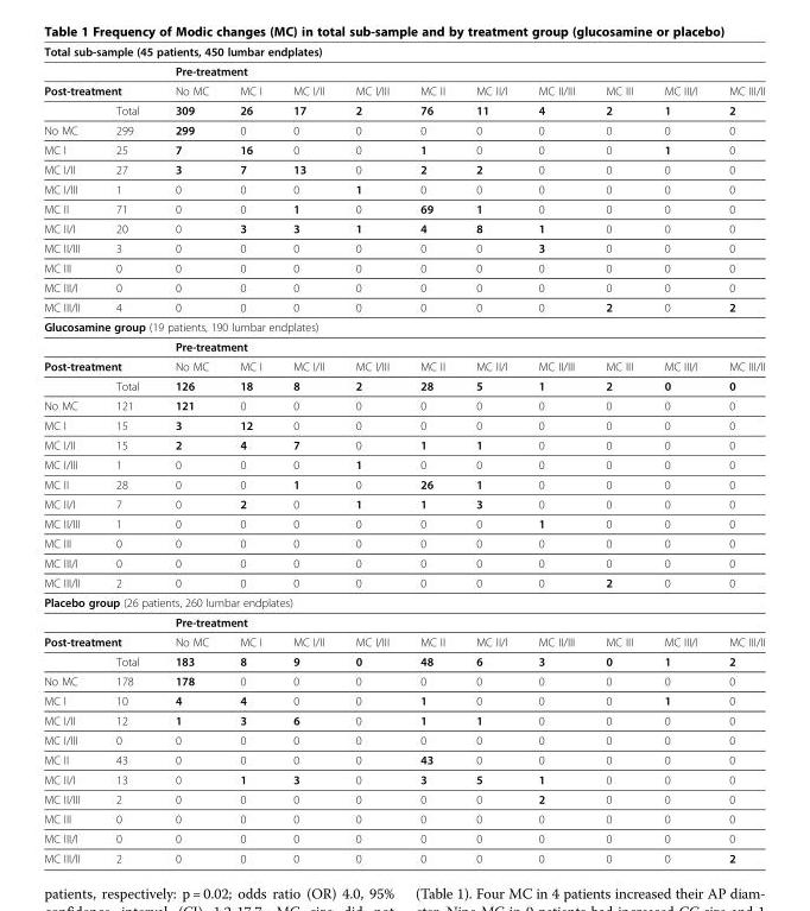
<table><thead><tr><td colspan="12">Total sub-sample (45 patients, 450 lumbar endplates)</td></tr><tr><td></td><td></td><td colspan="10">Pre-treatment</td></tr><tr><td colspan="2">Post-treatment</td><td>No MC</td><td>MC I</td><td>MC I/II</td><td>MC I/III</td><td>MC II</td><td>MC II/I</td><td>MC II/III</td><td>MC III</td><td>MC III/I</td><td>MC III/II</td></tr></thead><tbody><tr><td></td><td>Total</td><td>309</td><td>26</td><td>17</td><td>2</td><td>76</td><td>11</td><td>4</td><td>2</td><td>1</td><td>2</td></tr><tr><td>No MC</td><td>299</td><td>299</td><td>0</td><td>0</td><td>0</td><td>0</td><td>0</td><td>0</td><td>0</td><td>0</td><td>0</td></tr><tr><td>MC I</td><td>25</td><td>7</td><td>16</td><td>0</td><td>0</td><td>1</td><td>0</td><td>0</td><td>0</td><td>1</td><td>0</td></tr><tr><td>MC I/II</td><td>27</td><td>3</td><td>7</td><td>13</td><td>0</td><td>2</td><td>2</td><td>0</td><td>0</td><td>0</td><td>0</td></tr><tr><td>MC I/III</td><td>1</td><td>0</td><td>0</td><td>0</td><td>1</td><td>0</td><td>0</td><td>0</td><td>0</td><td>0</td><td>0</td></tr><tr><td>MC II</td><td>71</td><td>0</td><td>0</td><td>1</td><td>0</td><td>69</td><td>1</td><td>0</td><td>0</td><td>0</td><td>0</td></tr><tr><td>MC II/I</td><td>20</td><td>0</td><td>3</td><td>3</td><td>1</td><td>4</td><td>8</td><td>1</td><td>0</td><td>0</td><td>0</td></tr><tr><td>MC II/III</td><td>3</td><td>0</td><td>0</td><td>0</td><td>0</td><td>0</td><td>0</td><td>3</td><td>0</td><td>0</td><td>0</td></tr><tr><td>MC III</td><td>0</td><td>0</td><td>0</td><td>0</td><td>0</td><td>0</td><td>0</td><td>0</td><td>0</td><td>0</td><td>0</td></tr><tr><td>MC III/I</td><td>0</td><td>0</td><td>0</td><td>0</td><td>0</td><td>0</td><td>0</td><td>0</td><td>0</td><td>0</td><td>0</td></tr><tr><td>MC III/II</td><td>4</td><td>0</td><td>0</td><td>0</td><td>0</td><td>0</td><td>0</td><td>0</td><td>2</td><td>0</td><td>2</td></tr><tr><td colspan="12">Glucosamine group (19 patients, 190 lumbar endplates)</td></tr><tr><td></td><td></td><td colspan="10">Pre-treatment</td></tr><tr><td colspan="2">Post-treatment</td><td>No MC</td><td>MC I</td><td>MC I/II</td><td>MC I/III</td><td>MC II</td><td>MC II/I</td><td>MC II/III</td><td>MC III</td><td>MC III/I</td><td>MC III/II</td></tr><tr><td></td><td>Total</td><td>126</td><td>18</td><td>8</td><td>2</td><td>28</td><td>5</td><td>1</td><td>2</td><td>0</td><td>0</td></tr><tr><td>No MC</td><td>121</td><td>121</td><td>0</td><td>0</td><td>0</td><td>0</td><td>0</td><td>0</td><td>0</td><td>0</td><td>0</td></tr><tr><td>MC I</td><td>15</td><td>3</td><td>12</td><td>0</td><td>0</td><td>0</td><td>0</td><td>0</td><td>0</td><td>0</td><td>0</td></tr><tr><td>MC I/II</td><td>15</td><td>2</td><td>4</td><td>7</td><td>0</td><td>1</td><td>1</td><td>0</td><td>0</td><td>0</td><td>0</td></tr><tr><td>MC I/III</td><td>1</td><td>0</td><td>0</td><td>0</td><td>1</td><td>0</td><td>0</td><td>0</td><td>0</td><td>0</td><td>0</td></tr><tr><td>MC II</td><td>28</td><td>0</td><td>0</td><td>1</td><td>0</td><td>26</td><td>1</td><td>0</td><td>0</td><td>0</td><td>0</td></tr><tr><td>MC II/I</td><td>7</td><td>0</td><td>2</td><td>0</td><td>1</td><td>1</td><td>3</td><td>0</td><td>0</td><td>0</td><td>0</td></tr><tr><td>MC II/III</td><td>1</td><td>0</td><td>0</td><td>0</td><td>0</td><td>0</td><td>0</td><td>1</td><td>0</td><td>0</td><td>0</td></tr><tr><td>MC III</td><td>0</td><td>0</td><td>0</td><td>0</td><td>0</td><td>0</td><td>0</td><td>0</td><td>0</td><td>0</td><td>0</td></tr><tr><td>MC III/I</td><td>0</td><td>0</td><td>0</td><td>0</td><td>0</td><td>0</td><td>0</td><td>0</td><td>0</td><td>0</td><td>0</td></tr><tr><td>MC III/II</td><td>2</td><td>0</td><td>0</td><td>0</td><td>0</td><td>0</td><td>0</td><td>0</td><td>2</td><td>0</td><td>0</td></tr><tr><td colspan="12">Placebo group (26 patients, 260 lumbar endplates)</td></tr><tr><td></td><td></td><td colspan="10">Pre-treatment</td></tr><tr><td colspan="2">Post-treatment</td><td>No MC</td><td>MC I</td><td>MC I/II</td><td>MC I/III</td><td>MC II</td><td>MC II/I</td><td>MC II/III</td><td>MC III</td><td>MC III/I</td><td>MC III/II</td></tr><tr><td></td><td>Total</td><td>183</td><td>8</td><td>9</td><td>0</td><td>48</td><td>6</td><td>3</td><td>0</td><td>1</td><td>2</td></tr><tr><td>No MC</td><td>178</td><td>178</td><td>0</td><td>0</td><td>0</td><td>0</td><td>0</td><td>0</td><td>0</td><td>0</td><td>0</td></tr><tr><td>MC I</td><td>10</td><td>4</td><td>4</td><td>0</td><td>0</td><td>1</td><td>0</td><td>0</td><td>0</td><td>1</td><td>0</td></tr><tr><td>MC I/II</td><td>12</td><td>1</td><td>3</td><td>6</td><td>0</td><td>1</td><td>1</td><td>0</td><td>0</td><td>0</td><td>0</td></tr><tr><td>MC I/III</td><td>0</td><td>0</td><td>0</td><td>0</td><td>0</td><td>0</td><td>0</td><td>0</td><td>0</td><td>0</td><td>0</td></tr><tr><td>MC II</td><td>43</td><td>0</td><td>0</td><td>0</td><td>0</td><td>43</td><td>0</td><td>0</td><td>0</td><td>0</td><td>0</td></tr><tr><td>MC II/I</td><td>13</td><td>0</td><td>1</td><td>3</td><td>0</td><td>3</td><td>5</td><td>1</td><td>0</td><td>0</td><td>0</td></tr><tr><td>MC II/III</td><td>2</td><td>0</td><td>0</td><td>0</td><td>0</td><td>0</td><td>0</td><td>2</td><td>0</td><td>0</td><td>0</td></tr><tr><td>MC III</td><td>0</td><td>0</td><td>0</td><td>0</td><td>0</td><td>0</td><td>0</td><td>0</td><td>0</td><td>0</td><td>0</td></tr><tr><td>MC III/I</td><td>0</td><td>0</td><td>0</td><td>0</td><td>0</td><td>0</td><td>0</td><td>0</td><td>0</td><td>0</td><td>0</td></tr><tr><td>MC III/II</td><td>2</td><td>0</td><td>0</td><td>0</td><td>0</td><td>0</td><td>0</td><td>0</td><td>0</td><td>0</td><td>2</td></tr></tbody></table>